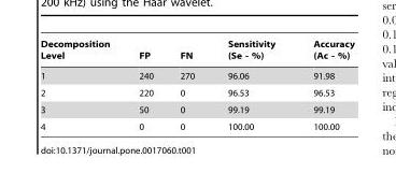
<table><thead><tr><td>Decomposition Level</td><td>FP</td><td>FN</td><td>Sensitivity (Se - %)</td><td>Accuracy (Ac - %)</td></tr></thead><tbody><tr><td>1</td><td>240</td><td>270</td><td>96.06</td><td>91.98</td></tr><tr><td>2</td><td>220</td><td>0</td><td>96.53</td><td>96.53</td></tr><tr><td>3</td><td>50</td><td>0</td><td>99.19</td><td>99.19</td></tr><tr><td>4</td><td>0</td><td>0</td><td>100.00</td><td>100.00</td></tr></tbody></table>